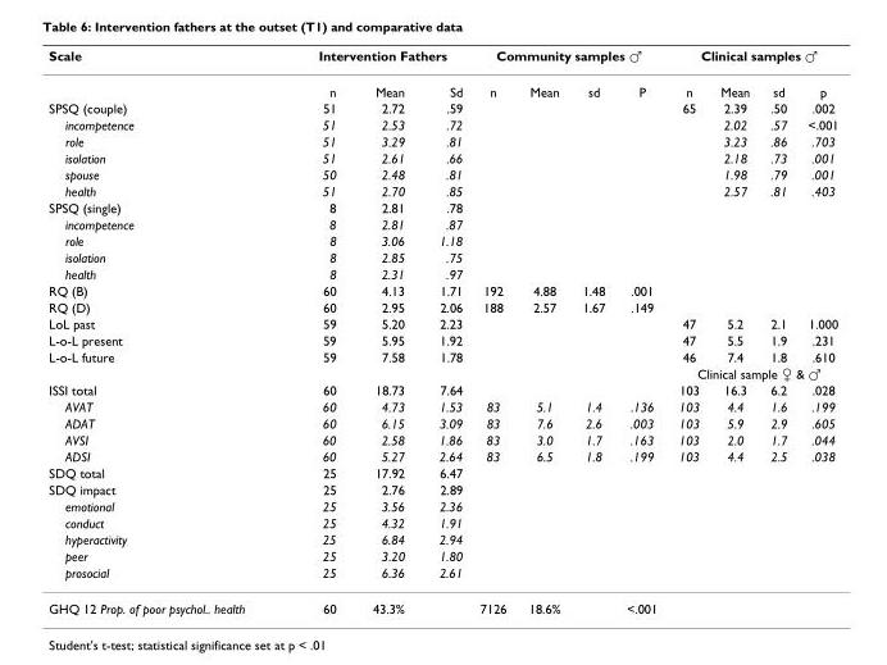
<table><thead><tr><td rowspan="2">Scale</td><td colspan="3">Intervention Fathers</td><td colspan="4">Community samples ♂</td><td colspan="4">Clinical samples ♂</td></tr><tr><td>n</td><td>Mean</td><td>Sd</td><td>n</td><td>Mean</td><td>sd</td><td>P</td><td>n</td><td>Mean</td><td>sd</td><td>p</td></tr></thead><tbody><tr><td>SPSQ (couple)</td><td>51</td><td>2.72</td><td>.59</td><td></td><td></td><td></td><td></td><td>65</td><td>2.39</td><td>.50</td><td>.002</td></tr><tr><td>incompetence</td><td>51</td><td>2.53</td><td>.72</td><td></td><td></td><td></td><td></td><td></td><td>2.02</td><td>.57</td><td>&lt;.001</td></tr><tr><td>role</td><td>51</td><td>3.29</td><td>.81</td><td></td><td></td><td></td><td></td><td></td><td>3.23</td><td>.86</td><td>.703</td></tr><tr><td>isolation</td><td>51</td><td>2.61</td><td>.66</td><td></td><td></td><td></td><td></td><td></td><td>2.18</td><td>.73</td><td>.001</td></tr><tr><td>spouse</td><td>50</td><td>2.48</td><td>.81</td><td></td><td></td><td></td><td></td><td></td><td>1.98</td><td>.79</td><td>.001</td></tr><tr><td>health</td><td>51</td><td>2.70</td><td>.85</td><td></td><td></td><td></td><td></td><td></td><td>2.57</td><td>.81</td><td>.403</td></tr><tr><td>SPSQ (single)</td><td>8</td><td>2.81</td><td>.78</td><td></td><td></td><td></td><td></td><td></td><td></td><td></td><td></td></tr><tr><td>incompetence</td><td>8</td><td>2.81</td><td>.87</td><td></td><td></td><td></td><td></td><td></td><td></td><td></td><td></td></tr><tr><td>role</td><td>8</td><td>3.06</td><td>1.18</td><td></td><td></td><td></td><td></td><td></td><td></td><td></td><td></td></tr><tr><td>isolation</td><td>8</td><td>2.85</td><td>.75</td><td></td><td></td><td></td><td></td><td></td><td></td><td></td><td></td></tr><tr><td>health</td><td>8</td><td>2.31</td><td>.97</td><td></td><td></td><td></td><td></td><td></td><td></td><td></td><td></td></tr><tr><td>RQ (B)</td><td>60</td><td>4.13</td><td>1.71</td><td>192</td><td>4.88</td><td>1.48</td><td>.001</td><td></td><td></td><td></td><td></td></tr><tr><td>RQ (D)</td><td>60</td><td>2.95</td><td>2.06</td><td>188</td><td>2.57</td><td>1.67</td><td>.149</td><td></td><td></td><td></td><td></td></tr><tr><td>LoL past</td><td>59</td><td>5.20</td><td>2.23</td><td></td><td></td><td></td><td></td><td>47</td><td>5.2</td><td>2.1</td><td>1.000</td></tr><tr><td>L-o-L present</td><td>59</td><td>5.95</td><td>1.92</td><td></td><td></td><td></td><td></td><td>47</td><td>5.5</td><td>1.9</td><td>.231</td></tr><tr><td rowspan="2">L-o-L future</td><td>59</td><td>7.58</td><td>1.78</td><td></td><td></td><td></td><td></td><td>46</td><td>7.4</td><td>1.8</td><td>.610</td></tr><tr><td></td><td></td><td></td><td></td><td></td><td></td><td></td><td colspan="4">Clinical sample ♀ &amp; ♂</td></tr><tr><td>ISSI total</td><td>60</td><td>18.73</td><td>7.64</td><td></td><td></td><td></td><td></td><td>103</td><td>16.3</td><td>6.2</td><td>.028</td></tr><tr><td>AVAT</td><td>60</td><td>4.73</td><td>1.53</td><td>83</td><td>5.1</td><td>1.4</td><td>.136</td><td>103</td><td>4.4</td><td>1.6</td><td>.199</td></tr><tr><td>ADAT</td><td>60</td><td>6.15</td><td>3.09</td><td>83</td><td>7.6</td><td>2.6</td><td>.003</td><td>103</td><td>5.9</td><td>2.9</td><td>.605</td></tr><tr><td>AVSI</td><td>60</td><td>2.58</td><td>1.86</td><td>83</td><td>3.0</td><td>1.7</td><td>.163</td><td>103</td><td>2.0</td><td>1.7</td><td>.044</td></tr><tr><td>ADSI</td><td>60</td><td>5.27</td><td>2.64</td><td>83</td><td>6.5</td><td>1.8</td><td>.199</td><td>103</td><td>4.4</td><td>2.5</td><td>.038</td></tr><tr><td>SDQ total</td><td>25</td><td>17.92</td><td>6.47</td><td></td><td></td><td></td><td></td><td></td><td></td><td></td><td></td></tr><tr><td>SDQ impact</td><td>25</td><td>2.76</td><td>2.89</td><td></td><td></td><td></td><td></td><td></td><td></td><td></td><td></td></tr><tr><td>emotional</td><td>25</td><td>3.56</td><td>2.36</td><td></td><td></td><td></td><td></td><td></td><td></td><td></td><td></td></tr><tr><td>conduct</td><td>25</td><td>4.32</td><td>1.91</td><td></td><td></td><td></td><td></td><td></td><td></td><td></td><td></td></tr><tr><td>hyperactivity</td><td>25</td><td>6.84</td><td>2.94</td><td></td><td></td><td></td><td></td><td></td><td></td><td></td><td></td></tr><tr><td>peer</td><td>25</td><td>3.20</td><td>1.80</td><td></td><td></td><td></td><td></td><td></td><td></td><td></td><td></td></tr><tr><td>prosocial</td><td>25</td><td>6.36</td><td>2.61</td><td></td><td></td><td></td><td></td><td></td><td></td><td></td><td></td></tr><tr><td>GHQ 12 Prop. of poor psychol.. health</td><td>60</td><td>43.3%</td><td></td><td>7126</td><td>18.6%</td><td></td><td>&lt;.001</td><td></td><td></td><td></td><td></td></tr></tbody></table>